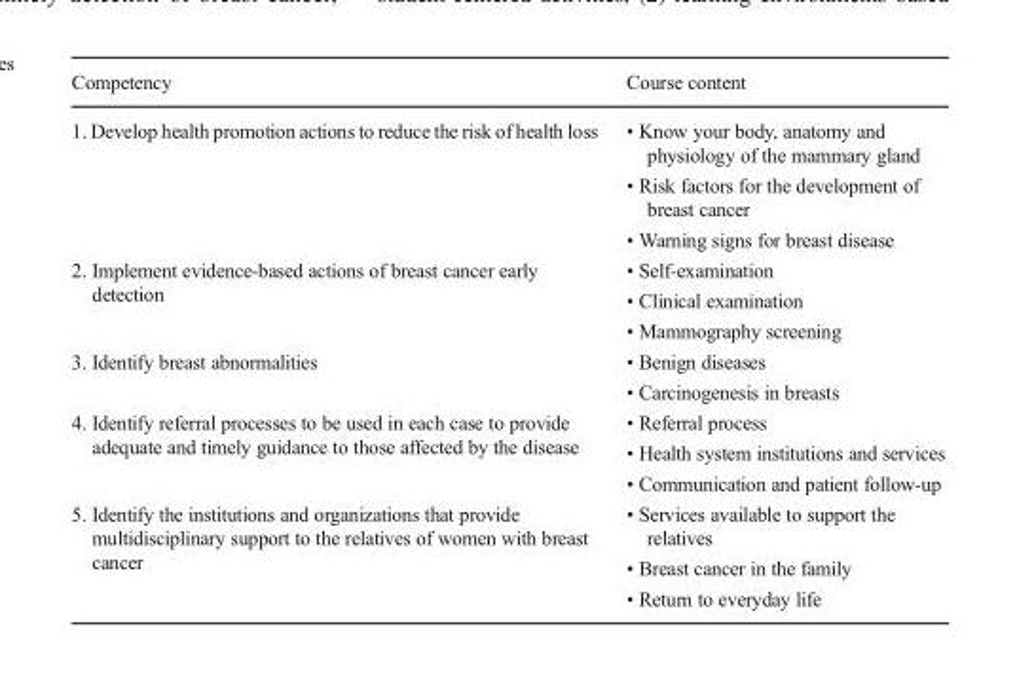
<table><thead><tr><td>Competency</td><td>Course content</td></tr></thead><tbody><tr><td rowspan="3">1. Develop health promotion actions to reduce the risk of health loss</td><td>• Know your body, anatomy and physiology of the mammary gland</td></tr><tr><td>• Risk factors for the development of breast cancer</td></tr><tr><td>• Warning signs for breast disease</td></tr><tr><td rowspan="3">2. Implement evidence-based actions of breast cancer early detection</td><td>• Self-examination</td></tr><tr><td>• Clinical examination</td></tr><tr><td>• Mammography screening</td></tr><tr><td rowspan="2">3. Identify breast abnormalities</td><td>• Benign diseases</td></tr><tr><td>• Carcinogenesis in breasts</td></tr><tr><td rowspan="3">4. Identify referral processes to be used in each case to provide adequate and timely guidance to those affected by the disease</td><td>• Referral process</td></tr><tr><td>• Health system institutions and services</td></tr><tr><td>• Communication and patient follow-up</td></tr><tr><td rowspan="3">5. Identify the institutions and organizations that provide multidisciplinary support to the relatives of women with breast cancer</td><td>• Services available to support the relatives</td></tr><tr><td>• Breast cancer in the family</td></tr><tr><td>• Return to everyday life</td></tr></tbody></table>